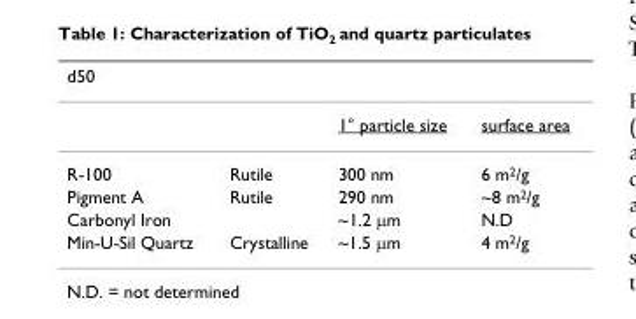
<table><thead><tr><td colspan="4">d50</td></tr><tr><td></td><td></td><td>1° particle size</td><td>surface area</td></tr></thead><tbody><tr><td>R-100</td><td>Rutile</td><td>300 nm</td><td>6 m<sup>2</sup>/g</td></tr><tr><td>Pigment A</td><td>Rutile</td><td>290 nm</td><td>~8 m<sup>2</sup>/g</td></tr><tr><td>Carbonyl Iron</td><td></td><td>~1.2 µm</td><td>N.D</td></tr><tr><td>Min-U-Sil Quartz</td><td>Crystalline</td><td>~1.5 µm</td><td>4 m<sup>2</sup>/g</td></tr></tbody></table>